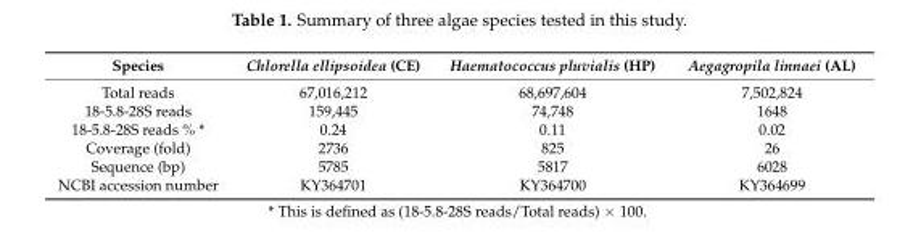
<table><thead><tr><td>Species</td><td>Chlorella ellipsoidea (CE)</td><td>Haematococcus pluvialis (HP)</td><td>Aegagropila linnaei (AL)</td></tr></thead><tbody><tr><td>Total reads</td><td>67,016,212</td><td>68,697,604</td><td>7,502,824</td></tr><tr><td>18-5.8-28S reads</td><td>159,445</td><td>74,748</td><td>1648</td></tr><tr><td>18-5.8-28S reads % *</td><td>0.24</td><td>0.11</td><td>0.02</td></tr><tr><td>Coverage (fold)</td><td>2736</td><td>825</td><td>26</td></tr><tr><td>Sequence (bp)</td><td>5785</td><td>5817</td><td>6028</td></tr><tr><td>NCBI accession number</td><td>KY364701</td><td>KY364700</td><td>KY364699</td></tr></tbody></table>